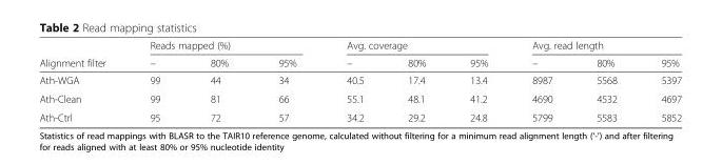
<table><thead><tr><td rowspan="2">Alignment filter</td><td colspan="3">Reads mapped (%)</td><td colspan="3">Avg. coverage</td><td colspan="3">Avg. read length</td></tr><tr><td>–</td><td>80%</td><td>95%</td><td>–</td><td>80%</td><td>95%</td><td>–</td><td>80%</td><td>95%</td></tr></thead><tbody><tr><td>Ath-WGA</td><td>99</td><td>44</td><td>34</td><td>40.5</td><td>17.4</td><td>13.4</td><td>8987</td><td>5568</td><td>5397</td></tr><tr><td>Ath-Clean</td><td>99</td><td>81</td><td>66</td><td>55.1</td><td>48.1</td><td>41.2</td><td>4690</td><td>4532</td><td>4697</td></tr><tr><td>Ath-Ctrl</td><td>95</td><td>72</td><td>57</td><td>34.2</td><td>29.2</td><td>24.8</td><td>5799</td><td>5583</td><td>5852</td></tr></tbody></table>